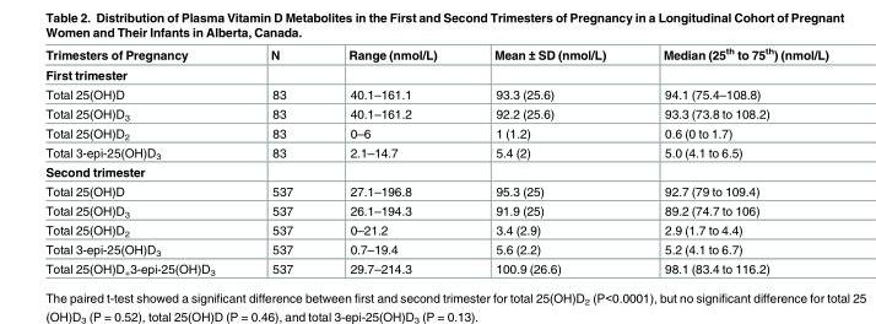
<table><thead><tr><td>Trimesters of Pregnancy</td><td>N</td><td>Range (nmol/L)</td><td>Mean ± SD (nmol/L)</td><td>Median (25<sup>th</sup> to 75<sup>th</sup>) (nmol/L)</td></tr></thead><tbody><tr><td colspan="5">First trimester</td></tr><tr><td>Total 25(OH)D</td><td>83</td><td>40.1–161.1</td><td>93.3 (25.6)</td><td>94.1 (75.4–108.8)</td></tr><tr><td>Total 25(OH)D<sub>3</sub></td><td>83</td><td>40.1–161.2</td><td>92.2 (25.6)</td><td>93.3 (73.8 to 108.2)</td></tr><tr><td>Total 25(OH)D<sub>2</sub></td><td>83</td><td>0–6</td><td>1 (1.2)</td><td>0.6 (0 to 1.7)</td></tr><tr><td>Total 3-epi-25(OH)D<sub>3</sub></td><td>83</td><td>2.1–14.7</td><td>5.4 (2)</td><td>5.0 (4.1 to 6.5)</td></tr><tr><td colspan="5">Second trimester</td></tr><tr><td>Total 25(OH)D</td><td>537</td><td>27.1–196.8</td><td>95.3 (25)</td><td>92.7 (79 to 109.4)</td></tr><tr><td>Total 25(OH)D<sub>3</sub></td><td>537</td><td>26.1–194.3</td><td>91.9 (25)</td><td>89.2 (74.7 to 106)</td></tr><tr><td>Total 25(OH)D<sub>2</sub></td><td>537</td><td>0–21.2</td><td>3.4 (2.9)</td><td>2.9 (1.7 to 4.4)</td></tr><tr><td>Total 3-epi-25(OH)D<sub>3</sub></td><td>537</td><td>0.7–19.4</td><td>5.6 (2.2)</td><td>5.2 (4.1 to 6.7)</td></tr><tr><td>Total 25(OH)D<sub>+</sub>3-epi-25(OH)D<sub>3</sub></td><td>537</td><td>29.7–214.3</td><td>100.9 (26.6)</td><td>98.1 (83.4 to 116.2)</td></tr></tbody></table>